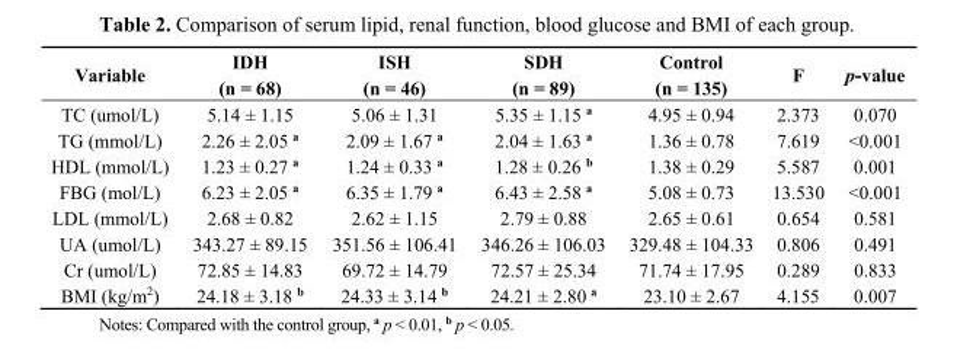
<table><thead><tr><td>Variable</td><td>IDH (n = 68)</td><td>ISH (n = 46)</td><td>SDH (n = 89)</td><td>Control (n = 135)</td><td>F</td><td>p-value</td></tr></thead><tbody><tr><td>TC (umol/L)</td><td>5.14 ± 1.15</td><td>5.06 ± 1.31</td><td>5.35 ± 1.15 <sup>a</sup></td><td>4.95 ± 0.94</td><td>2.373</td><td>0.070</td></tr><tr><td>TG (mmol/L)</td><td>2.26 ± 2.05 <sup>a</sup></td><td>2.09 ± 1.67 <sup>a</sup></td><td>2.04 ± 1.63 <sup>a</sup></td><td>1.36 ± 0.78</td><td>7.619</td><td>&lt;0.001</td></tr><tr><td>HDL (mmol/L)</td><td>1.23 ± 0.27 <sup>a</sup></td><td>1.24 ± 0.33 <sup>a</sup></td><td>1.28 ± 0.26 <sup>b</sup></td><td>1.38 ± 0.29</td><td>5.587</td><td>0.001</td></tr><tr><td>FBG (mol/L)</td><td>6.23 ± 2.05 <sup>a</sup></td><td>6.35 ± 1.79 <sup>a</sup></td><td>6.43 ± 2.58 <sup>a</sup></td><td>5.08 ± 0.73</td><td>13.530</td><td>&lt;0.001</td></tr><tr><td>LDL (mmol/L)</td><td>2.68 ± 0.82</td><td>2.62 ± 1.15</td><td>2.79 ± 0.88</td><td>2.65 ± 0.61</td><td>0.654</td><td>0.581</td></tr><tr><td>UA (umol/L)</td><td>343.27 ± 89.15</td><td>351.56 ± 106.41</td><td>346.26 ± 106.03</td><td>329.48 ± 104.33</td><td>0.806</td><td>0.491</td></tr><tr><td>Cr (umol/L)</td><td>72.85 ± 14.83</td><td>69.72 ± 14.79</td><td>72.57 ± 25.34</td><td>71.74 ± 17.95</td><td>0.289</td><td>0.833</td></tr><tr><td>BMI (kg/m<sup>2</sup>)</td><td>24.18 ± 3.18 <sup>b</sup></td><td>24.33 ± 3.14 <sup>b</sup></td><td>24.21 ± 2.80 <sup>a</sup></td><td>23.10 ± 2.67</td><td>4.155</td><td>0.007</td></tr></tbody></table>